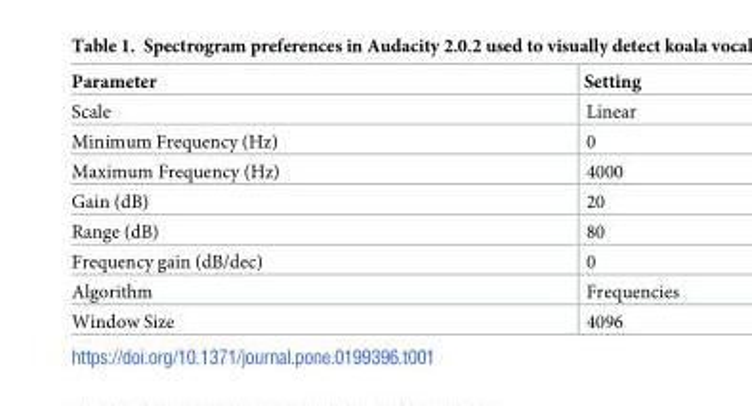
<table><thead><tr><td>Parameter</td><td>Setting</td></tr></thead><tbody><tr><td>Scale</td><td>Linear</td></tr><tr><td>Minimum Frequency (Hz)</td><td>0</td></tr><tr><td>Maximum Frequency (Hz)</td><td>4000</td></tr><tr><td>Gain (dB)</td><td>20</td></tr><tr><td>Range (dB)</td><td>80</td></tr><tr><td>Frequency gain (dB/dec)</td><td>0</td></tr><tr><td>Algorithm</td><td>Frequencies</td></tr><tr><td>Window Size</td><td>4096</td></tr></tbody></table>